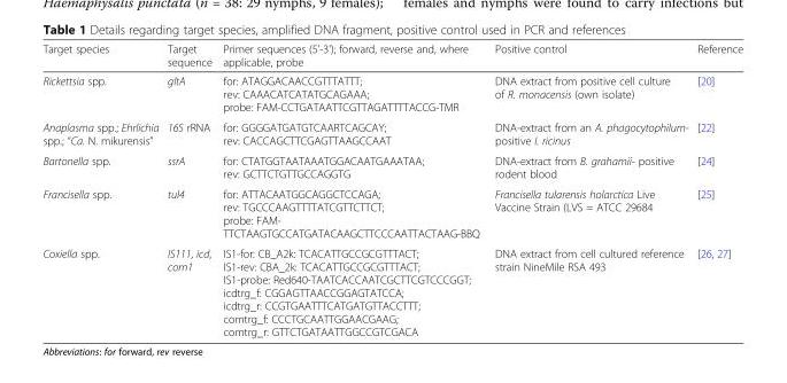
<table><thead><tr><td>Target species</td><td>Target sequence</td><td>Primer sequences (5&#x27;-3&#x27;); forward, reverse and, where applicable, probe</td><td>Positive control</td><td>Reference</td></tr></thead><tbody><tr><td>Rickettsia spp.</td><td>gltA</td><td>for: ATAGGACAACCGTTTATTT; rev: CAAACATCATATGCAGAAA; probe: FAM-CCTGATAATTCGTTAGATTTTACCG-TMR</td><td>DNA extract from positive cell culture of R. monacensis (own isolate)</td><td>[20]</td></tr><tr><td>Anaplasma spp.; Ehrlichia spp.; “Ca. N. mikurensis”</td><td>16S rRNA</td><td>for: GGGGATGATGTCAARTCAGCAY; rev: CACCAGCTTCGAGTTAAGCCAAT</td><td>DNA-extract from an A. phagocytophilum- positive I. ricinus</td><td>[22]</td></tr><tr><td>Bartonella spp.</td><td>ssrA</td><td>for: CTATGGTAATAAATGGACAATGAAATAA; rev: GCTTCTGTTGCCAGGTG</td><td>DNA-extract from B. grahamii- positive rodent blood</td><td>[24]</td></tr><tr><td>Francisella spp.</td><td>tul4</td><td>for: ATTACAATGGCAGGCTCCAGA; rev: TGCCCAAGTTTTATCGTTCTTCT; probe: FAM- TTCTAAGTGCCATGATACAAGCTTCCCAATTACTAAG-BBQ</td><td>Francisella tularensis holarctica Live Vaccine Strain (LVS = ATCC 29684</td><td>[25]</td></tr><tr><td>Coxiella spp.</td><td>IS111, icd, com1</td><td>IS1-for: CB_A2k: TCACATTGCCGCGTTTACT; IS1-rev: CBA_2k: TCACATTGCCGCGTTTACT; IS1-probe: Red640-TAATCACCAATCGCTTCGTCCCGGT; icdtrg_f: CGGAGTTAACCGGAGTATCCA; icdtrg_r: CCGTGAATTTCATGATGTTACCTTT; comtrg_f: CCCTGCAATTGGAACGAAG; comtrg_r: GTTCTGATAATTGGCCGTCGACA</td><td>DNA extract from cell cultured reference strain NineMile RSA 493</td><td>[26, 27]</td></tr></tbody></table>